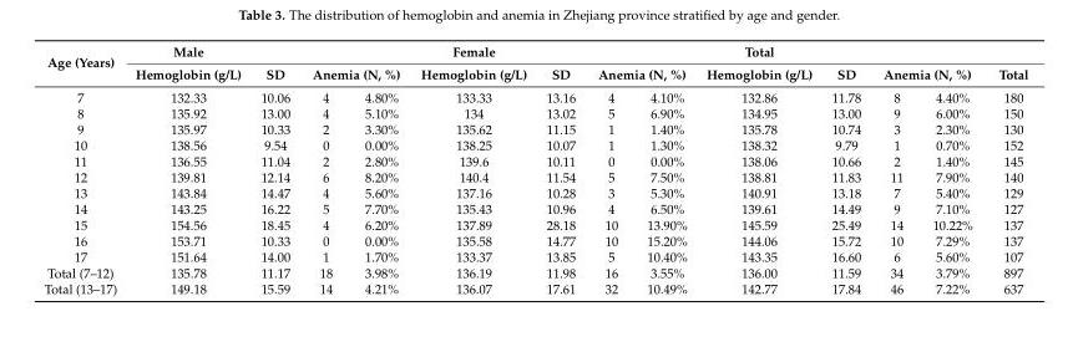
<table><thead><tr><td rowspan="2">Age (Years)</td><td rowspan="2">Male Hemoglobin (g/L)</td><td rowspan="2">SD</td><td></td><td></td><td rowspan="2">Female Hemoglobin (g/L)</td><td rowspan="2">SD</td><td></td><td></td><td rowspan="2">Total Hemoglobin (g/L)</td><td rowspan="2">SD</td><td></td><td></td><td rowspan="2">Total</td></tr><tr><td colspan="2">Anemia (N, %)</td><td colspan="2">Anemia (N, %)</td><td colspan="2">Anemia (N, %)</td></tr></thead><tbody><tr><td>7</td><td>132.33</td><td>10.06</td><td>4</td><td>4.80%</td><td>133.33</td><td>13.16</td><td>4</td><td>4.10%</td><td>132.86</td><td>11.78</td><td>8</td><td>4.40%</td><td>180</td></tr><tr><td>8</td><td>135.92</td><td>13.00</td><td>4</td><td>5.10%</td><td>134</td><td>13.02</td><td>5</td><td>6.90%</td><td>134.95</td><td>13.00</td><td>9</td><td>6.00%</td><td>150</td></tr><tr><td>9</td><td>135.97</td><td>10.33</td><td>2</td><td>3.30%</td><td>135.62</td><td>11.15</td><td>1</td><td>1.40%</td><td>135.78</td><td>10.74</td><td>3</td><td>2.30%</td><td>130</td></tr><tr><td>10</td><td>138.56</td><td>9.54</td><td>0</td><td>0.00%</td><td>138.25</td><td>10.07</td><td>1</td><td>1.30%</td><td>138.32</td><td>9.79</td><td>1</td><td>0.70%</td><td>152</td></tr><tr><td>11</td><td>136.55</td><td>11.04</td><td>2</td><td>2.80%</td><td>139.6</td><td>10.11</td><td>0</td><td>0.00%</td><td>138.06</td><td>10.66</td><td>2</td><td>1.40%</td><td>145</td></tr><tr><td>12</td><td>139.81</td><td>12.14</td><td>6</td><td>8.20%</td><td>140.4</td><td>11.54</td><td>5</td><td>7.50%</td><td>138.81</td><td>11.83</td><td>11</td><td>7.90%</td><td>140</td></tr><tr><td>13</td><td>143.84</td><td>14.47</td><td>4</td><td>5.60%</td><td>137.16</td><td>10.28</td><td>3</td><td>5.30%</td><td>140.91</td><td>13.18</td><td>7</td><td>5.40%</td><td>129</td></tr><tr><td>14</td><td>143.25</td><td>16.22</td><td>5</td><td>7.70%</td><td>135.43</td><td>10.96</td><td>4</td><td>6.50%</td><td>139.61</td><td>14.49</td><td>9</td><td>7.10%</td><td>127</td></tr><tr><td>15</td><td>154.56</td><td>18.45</td><td>4</td><td>6.20%</td><td>137.89</td><td>28.18</td><td>10</td><td>13.90%</td><td>145.59</td><td>25.49</td><td>14</td><td>10.22%</td><td>137</td></tr><tr><td>16</td><td>153.71</td><td>10.33</td><td>0</td><td>0.00%</td><td>135.58</td><td>14.77</td><td>10</td><td>15.20%</td><td>144.06</td><td>15.72</td><td>10</td><td>7.29%</td><td>137</td></tr><tr><td>17</td><td>151.64</td><td>14.00</td><td>1</td><td>1.70%</td><td>133.37</td><td>13.85</td><td>5</td><td>10.40%</td><td>143.35</td><td>16.60</td><td>6</td><td>5.60%</td><td>107</td></tr><tr><td>Total (7–12)</td><td>135.78</td><td>11.17</td><td>18</td><td>3.98%</td><td>136.19</td><td>11.98</td><td>16</td><td>3.55%</td><td>136.00</td><td>11.59</td><td>34</td><td>3.79%</td><td>897</td></tr><tr><td>Total (13–17)</td><td>149.18</td><td>15.59</td><td>14</td><td>4.21%</td><td>136.07</td><td>17.61</td><td>32</td><td>10.49%</td><td>142.77</td><td>17.84</td><td>46</td><td>7.22%</td><td>637</td></tr></tbody></table>